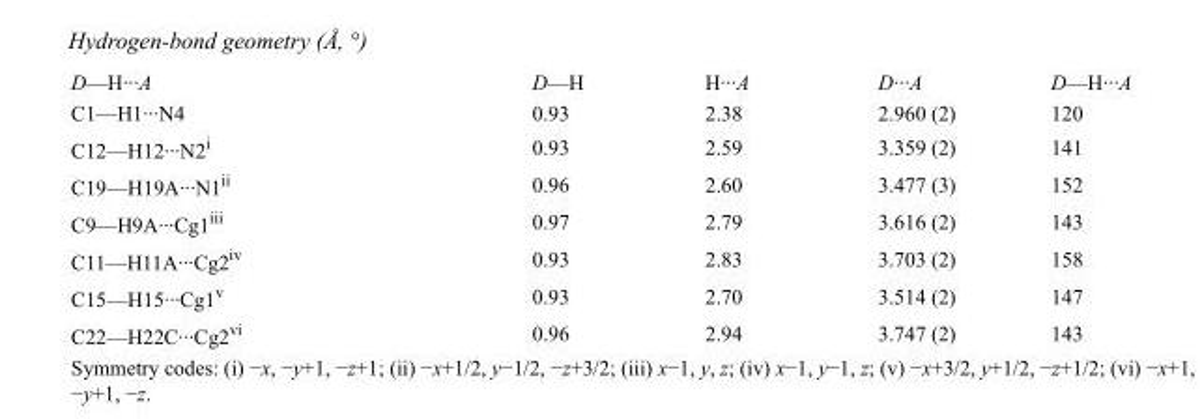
<table><tbody><tr><td>D—H···A</td><td>D—H</td><td>H···A</td><td>D···A</td><td>D—H···A</td></tr><tr><td>C1—H1···N4</td><td>0.93</td><td>2.38</td><td>2.960 (2)</td><td>120</td></tr><tr><td>C12—H12···N2<sup>i</sup></td><td>0.93</td><td>2.59</td><td>3.359 (2)</td><td>141</td></tr><tr><td>C19—H19A···N1<sup>ii</sup></td><td>0.96</td><td>2.60</td><td>3.477 (3)</td><td>152</td></tr><tr><td>C9—H9A···Cg1<sup>iii</sup></td><td>0.97</td><td>2.79</td><td>3.616 (2)</td><td>143</td></tr><tr><td>C11—H11A···Cg2<sup>iv</sup></td><td>0.93</td><td>2.83</td><td>3.703 (2)</td><td>158</td></tr><tr><td>C15—H15···Cg1<sup>v</sup></td><td>0.93</td><td>2.70</td><td>3.514 (2)</td><td>147</td></tr><tr><td>C22—H22C···Cg2<sup>vi</sup></td><td>0.96</td><td>2.94</td><td>3.747 (2)</td><td>143</td></tr></tbody></table>